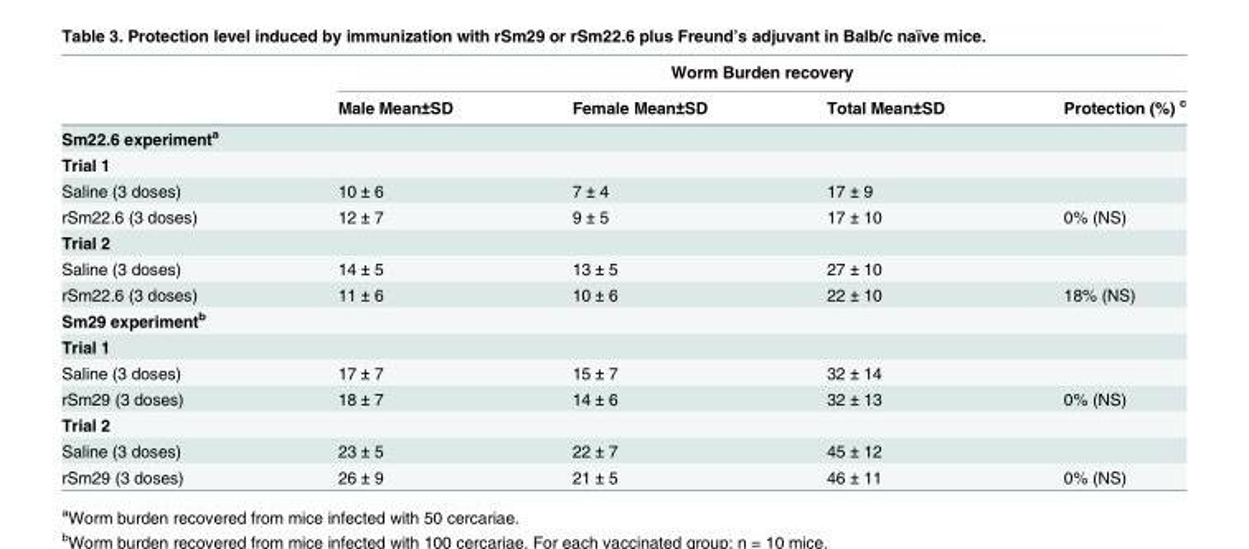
<table><thead><tr><td rowspan="2"></td><td colspan="4">Worm Burden recovery</td></tr><tr><td>Male Mean±SD</td><td>Female Mean±SD</td><td>Total Mean±SD</td><td>Protection (%) <sup>c</sup></td></tr></thead><tbody><tr><td colspan="5">Sm22.6 experiment<sup>a</sup></td></tr><tr><td colspan="5">Trial 1</td></tr><tr><td>Saline (3 doses)</td><td>10 ± 6</td><td>7 ± 4</td><td>17 ± 9</td><td></td></tr><tr><td>rSm22.6 (3 doses)</td><td>12 ± 7</td><td>9 ± 5</td><td>17 ± 10</td><td>0% (NS)</td></tr><tr><td colspan="5">Trial 2</td></tr><tr><td>Saline (3 doses)</td><td>14 ± 5</td><td>13 ± 5</td><td>27 ± 10</td><td></td></tr><tr><td>rSm22.6 (3 doses)</td><td>11 ± 6</td><td>10 ± 6</td><td>22 ± 10</td><td>18% (NS)</td></tr><tr><td colspan="5">Sm29 experiment<sup>b</sup></td></tr><tr><td colspan="5">Trial 1</td></tr><tr><td>Saline (3 doses)</td><td>17 ± 7</td><td>15 ± 7</td><td>32 ± 14</td><td></td></tr><tr><td>rSm29 (3 doses)</td><td>18 ± 7</td><td>14 ± 6</td><td>32 ± 13</td><td>0% (NS)</td></tr><tr><td colspan="5">Trial 2</td></tr><tr><td>Saline (3 doses)</td><td>23 ± 5</td><td>22 ± 7</td><td>45 ± 12</td><td></td></tr><tr><td>rSm29 (3 doses)</td><td>26 ± 9</td><td>21 ± 5</td><td>46 ± 11</td><td>0% (NS)</td></tr></tbody></table>